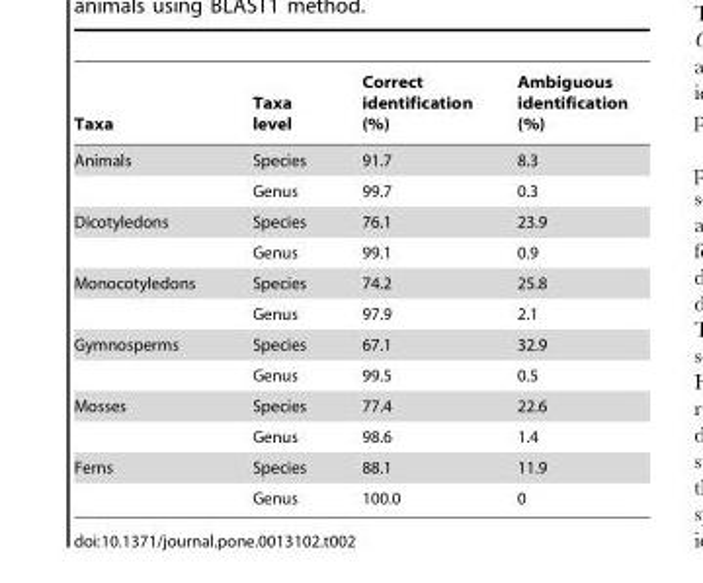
<table><thead><tr><td>Taxa</td><td>Taxa level</td><td>Correct identification (%)</td><td>Ambiguous identification (%)</td></tr></thead><tbody><tr><td rowspan="2">Animals</td><td>Species</td><td>91.7</td><td>8.3</td></tr><tr><td>Genus</td><td>99.7</td><td>0.3</td></tr><tr><td rowspan="2">Dicotyledons</td><td>Species</td><td>76.1</td><td>23.9</td></tr><tr><td>Genus</td><td>99.1</td><td>0.9</td></tr><tr><td rowspan="2">Monocotyledons</td><td>Species</td><td>74.2</td><td>25.8</td></tr><tr><td>Genus</td><td>97.9</td><td>2.1</td></tr><tr><td rowspan="2">Gymnosperms</td><td>Species</td><td>67.1</td><td>32.9</td></tr><tr><td>Genus</td><td>99.5</td><td>0.5</td></tr><tr><td rowspan="2">Mosses</td><td>Species</td><td>77.4</td><td>22.6</td></tr><tr><td>Genus</td><td>98.6</td><td>1.4</td></tr><tr><td rowspan="2">Ferns</td><td>Species</td><td>88.1</td><td>11.9</td></tr><tr><td>Genus</td><td>100.0</td><td>0</td></tr></tbody></table>